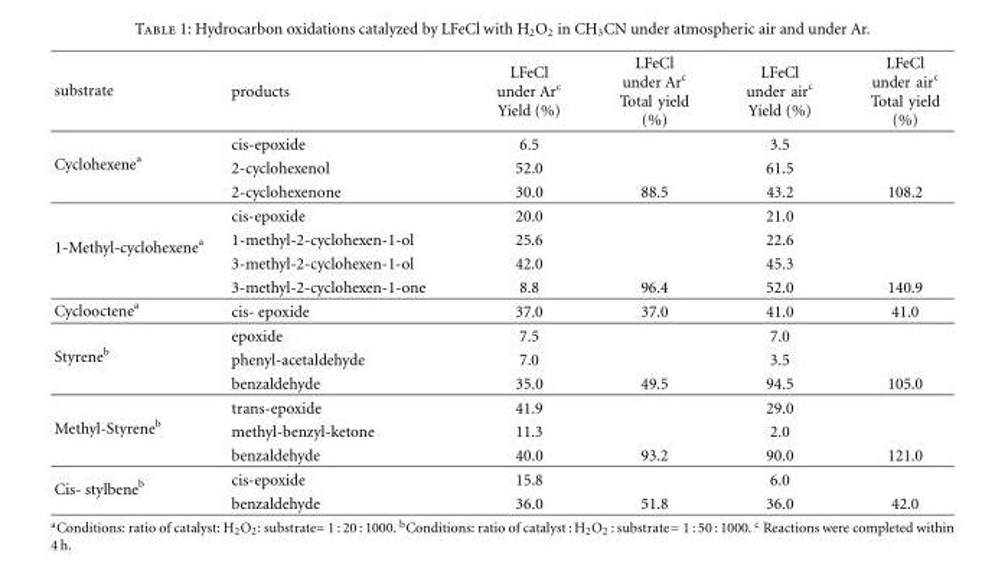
<table><thead><tr><td>substrate</td><td>products</td><td>LFeCl under Ar<sup>c</sup> Yield (%)</td><td>LFeCl under Ar<sup>c</sup> Total yield (%)</td><td>LFeCl under air<sup>c</sup> Yield (%)</td><td>LFeCl under air<sup>c</sup> Total yield (%)</td></tr></thead><tbody><tr><td rowspan="3">Cyclohexene<sup>a</sup></td><td>cis-epoxide</td><td>6.5</td><td rowspan="2"></td><td>3.5</td><td rowspan="2"></td></tr><tr><td>2-cyclohexenol</td><td>52.0</td><td>61.5</td></tr><tr><td>2-cyclohexenone</td><td>30.0</td><td>88.5</td><td>43.2</td><td>108.2</td></tr><tr><td rowspan="4">1-Methyl-cyclohexene<sup>a</sup></td><td>cis-epoxide</td><td>20.0</td><td rowspan="3"></td><td>21.0</td><td rowspan="3"></td></tr><tr><td>1-methyl-2-cyclohexen-1-ol</td><td>25.6</td><td>22.6</td></tr><tr><td>3-methyl-2-cyclohexen-1-ol</td><td>42.0</td><td>45.3</td></tr><tr><td>3-methyl-2-cyclohexen-1-one</td><td>8.8</td><td>96.4</td><td>52.0</td><td>140.9</td></tr><tr><td>Cyclooctene<sup>a</sup></td><td>cis- epoxide</td><td>37.0</td><td>37.0</td><td>41.0</td><td>41.0</td></tr><tr><td rowspan="3">Styrene<sup>b</sup></td><td>epoxide</td><td>7.5</td><td rowspan="2"></td><td>7.0</td><td rowspan="2"></td></tr><tr><td>phenyl-acetaldehyde</td><td>7.0</td><td>3.5</td></tr><tr><td>benzaldehyde</td><td>35.0</td><td>49.5</td><td>94.5</td><td>105.0</td></tr><tr><td rowspan="3">Methyl-Styrene<sup>b</sup></td><td>trans-epoxide</td><td>41.9</td><td rowspan="2"></td><td>29.0</td><td rowspan="2"></td></tr><tr><td>methyl-benzyl-ketone</td><td>11.3</td><td>2.0</td></tr><tr><td>benzaldehyde</td><td>40.0</td><td>93.2</td><td>90.0</td><td>121.0</td></tr><tr><td rowspan="2">Cis- stylbene<sup>b</sup></td><td>cis-epoxide</td><td>15.8</td><td></td><td>6.0</td><td></td></tr><tr><td>benzaldehyde</td><td>36.0</td><td>51.8</td><td>36.0</td><td>42.0</td></tr></tbody></table>